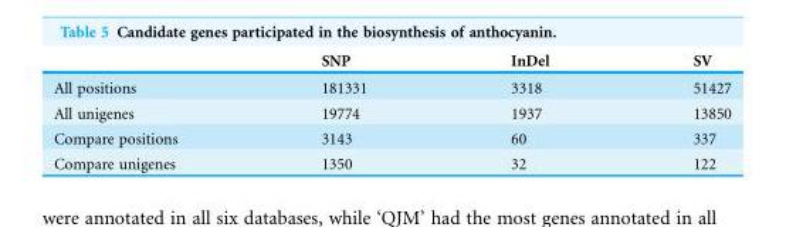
<table><thead><tr><td></td><td>SNP</td><td>InDel</td><td>SV</td></tr></thead><tbody><tr><td>All positions</td><td>181331</td><td>3318</td><td>51427</td></tr><tr><td>All unigenes</td><td>19774</td><td>1937</td><td>13850</td></tr><tr><td>Compare positions</td><td>3143</td><td>60</td><td>337</td></tr><tr><td>Compare unigenes</td><td>1350</td><td>32</td><td>122</td></tr></tbody></table>